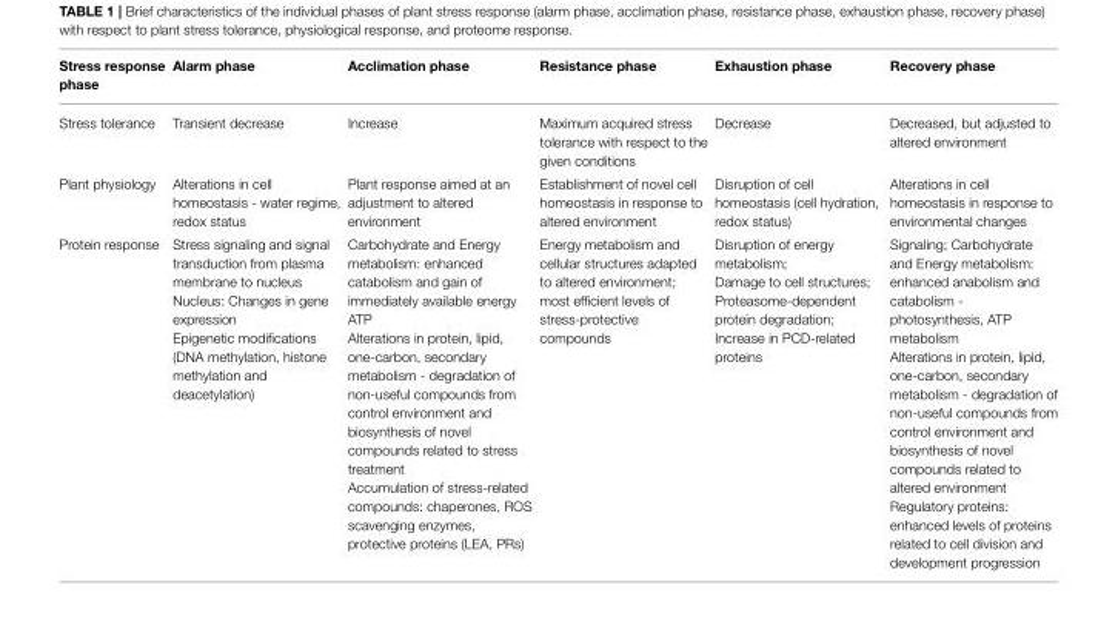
<table><thead><tr><td>Stress response phase</td><td>Alarm phase</td><td>Acclimation phase</td><td>Resistance phase</td><td>Exhaustion phase</td><td>Recovery phase</td></tr></thead><tbody><tr><td>Stress tolerance</td><td>Transient decrease</td><td>Increase</td><td>Maximum acquired stress tolerance with respect to the given conditions</td><td>Decrease</td><td>Decreased, but adjusted to altered environment</td></tr><tr><td>Plant physiology</td><td>Alterations in cell homeostasis - water regime, redox status</td><td>Plant response aimed at an adjustment to altered environment</td><td>Establishment of novel cell homeostasis in response to altered environment</td><td>Disruption of cell homeostasis (cell hydration, redox status)</td><td>Alterations in cell homeostasis in response to environmental changes</td></tr><tr><td>Protein response</td><td>Stress signaling and signal transduction from plasma membrane to nucleus Nucleus: Changes in gene expression Epigenetic modifications (DNA methylation, histone methylation and deacetylation)</td><td>Carbohydrate and Energy metabolism: enhanced catabolism and gain of immediately available energy ATP Alterations in protein, lipid, one-carbon, secondary metabolism - degradation of non-useful compounds from control environment and biosynthesis of novel compounds related to stress treatment Accumulation of stress-related compounds: chaperones, ROS scavenging enzymes, protective proteins (LEA, PRs)</td><td>Energy metabolism and cellular structures adapted to altered environment; most efficient levels of stress-protective compounds</td><td>Disruption of energy metabolism; Damage to cell structures; Proteasome-dependent protein degradation; Increase in PCD-related proteins</td><td>Signaling; Carbohydrate and Energy metabolism: enhanced anabolism and catabolism - photosynthesis, ATP metabolism Alterations in protein, lipid, one-carbon, secondary metabolism - degradation of non-useful compounds from control environment and biosynthesis of novel compounds related to altered environment Regulatory proteins: enhanced levels of proteins related to cell division and development progression</td></tr></tbody></table>